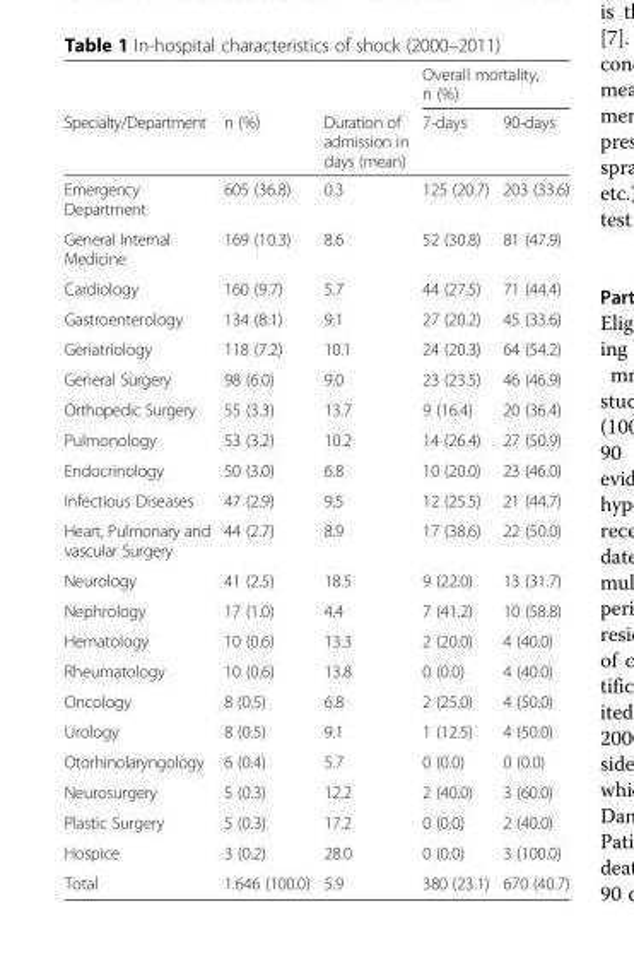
<table><thead><tr><td rowspan="2">Specialty/Department</td><td rowspan="2">n (%)</td><td rowspan="2">Duration of admission in days (mean)</td><td colspan="2">Overall mortality, n (%)</td></tr><tr><td>7-days</td><td>90-days</td></tr></thead><tbody><tr><td>Emergency Department</td><td>605 (36.8)</td><td>0.3</td><td>125 (20.7)</td><td>203 (33.6)</td></tr><tr><td>General Internal Medicine</td><td>169 (10.3)</td><td>8.6</td><td>52 (30.8)</td><td>81 (47.9)</td></tr><tr><td>Cardiology</td><td>160 (9.7)</td><td>5.7</td><td>44 (27.5)</td><td>71 (44.4)</td></tr><tr><td>Gastroenterology</td><td>134 (8.1)</td><td>9.1</td><td>27 (20.2)</td><td>45 (33.6)</td></tr><tr><td>Geriatriology</td><td>118 (7.2)</td><td>10.1</td><td>24 (20.3)</td><td>64 (54.2)</td></tr><tr><td>General Surgery</td><td>98 (6.0)</td><td>9.0</td><td>23 (23.5)</td><td>46 (46.9)</td></tr><tr><td>Orthopedic Surgery</td><td>55 (3.3)</td><td>13.7</td><td>9 (16.4)</td><td>20 (36.4)</td></tr><tr><td>Pulmonology</td><td>53 (3.2)</td><td>10.2</td><td>14 (26.4)</td><td>27 (50.9)</td></tr><tr><td>Endocrinology</td><td>50 (3.0)</td><td>6.8</td><td>10 (20.0)</td><td>23 (46.0)</td></tr><tr><td>Infectious Diseases</td><td>47 (2.9)</td><td>9.5</td><td>12 (25.5)</td><td>21 (44.7)</td></tr><tr><td>Heart, Pulmonary and vascular Surgery</td><td>44 (2.7)</td><td>8.9</td><td>17 (38.6)</td><td>22 (50.0)</td></tr><tr><td>Neurology</td><td>41 (2.5)</td><td>18.5</td><td>9 (22.0)</td><td>13 (31.7)</td></tr><tr><td>Nephrology</td><td>17 (1.0)</td><td>4.4</td><td>7 (41.2)</td><td>10 (58.8)</td></tr><tr><td>Hematology</td><td>10 (0.6)</td><td>13.3</td><td>2 (20.0)</td><td>4 (40.0)</td></tr><tr><td>Rheumatology</td><td>10 (0.6)</td><td>13.8</td><td>0 (0.0)</td><td>4 (40.0)</td></tr><tr><td>Oncology</td><td>8 (0.5)</td><td>6.8</td><td>2 (25.0)</td><td>4 (50.0)</td></tr><tr><td>Urology</td><td>8 (0.5)</td><td>9.1</td><td>1 (12.5)</td><td>4 (50.0)</td></tr><tr><td>Otorhinolaryngology</td><td>6 (0.4)</td><td>5.7</td><td>0 (0.0)</td><td>0 (0.0)</td></tr><tr><td>Neurosurgery</td><td>5 (0.3)</td><td>12.2</td><td>2 (40.0)</td><td>3 (60.0)</td></tr><tr><td>Plastic Surgery</td><td>5 (0.3)</td><td>17.2</td><td>0 (0.0)</td><td>2 (40.0)</td></tr><tr><td>Hospice</td><td>3 (0.2)</td><td>28.0</td><td>0 (0.0)</td><td>3 (100.0)</td></tr><tr><td>Total</td><td>1.646 (100.0)</td><td>5.9</td><td>380 (23.1)</td><td>670 (40.7)</td></tr></tbody></table>